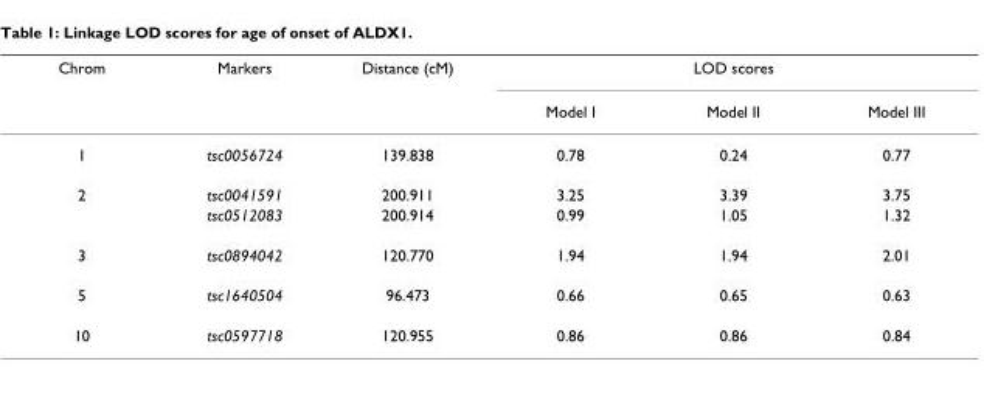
<table><thead><tr><td rowspan="2">Chrom</td><td rowspan="2">Markers</td><td rowspan="2">Distance (cM)</td><td colspan="3">LOD scores</td></tr><tr><td>Model I</td><td>Model II</td><td>Model III</td></tr></thead><tbody><tr><td>1</td><td>tsc0056724</td><td>139.838</td><td>0.78</td><td>0.24</td><td>0.77</td></tr><tr><td rowspan="2">2</td><td>tsc0041591</td><td>200.911</td><td>3.25</td><td>3.39</td><td>3.75</td></tr><tr><td>tsc0512083</td><td>200.914</td><td>0.99</td><td>1.05</td><td>1.32</td></tr><tr><td>3</td><td>tsc0894042</td><td>120.770</td><td>1.94</td><td>1.94</td><td>2.01</td></tr><tr><td>5</td><td>tsc1640504</td><td>96.473</td><td>0.66</td><td>0.65</td><td>0.63</td></tr><tr><td>10</td><td>tsc0597718</td><td>120.955</td><td>0.86</td><td>0.86</td><td>0.84</td></tr></tbody></table>